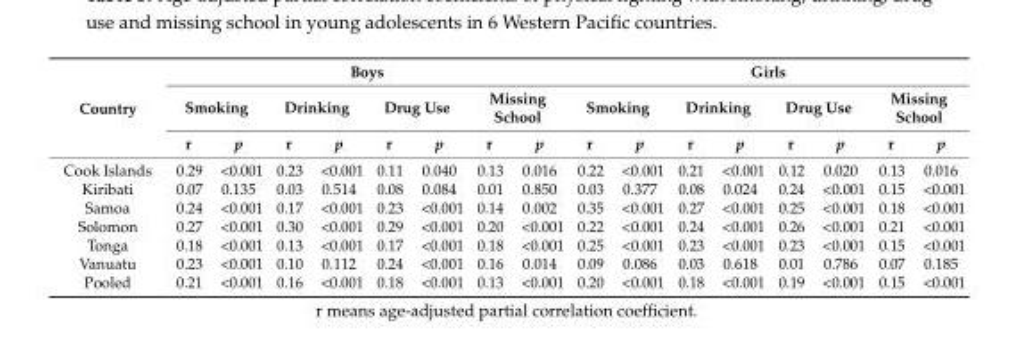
<table><thead><tr><td rowspan="3">Country</td><td colspan="8">Boys</td><td colspan="8">Girls</td></tr><tr><td colspan="2">Smoking</td><td colspan="2">Drinking</td><td colspan="2">Drug Use</td><td colspan="2">Missing School</td><td colspan="2">Smoking</td><td colspan="2">Drinking</td><td colspan="2">Drug Use</td><td colspan="2">Missing School</td></tr><tr><td>r</td><td>p</td><td>r</td><td>p</td><td>r</td><td>p</td><td>r</td><td>p</td><td>r</td><td>p</td><td>r</td><td>p</td><td>r</td><td>p</td><td>r</td><td>p</td></tr></thead><tbody><tr><td>Cook Islands</td><td>0.29</td><td>&lt;0.001</td><td>0.23</td><td>&lt;0.001</td><td>0.11</td><td>0.040</td><td>0.13</td><td>0.016</td><td>0.22</td><td>&lt;0.001</td><td>0.21</td><td>&lt;0.001</td><td>0.12</td><td>0.020</td><td>0.13</td><td>0.016</td></tr><tr><td>Kiribati</td><td>0.07</td><td>0.135</td><td>0.03</td><td>0.514</td><td>0.08</td><td>0.084</td><td>0.01</td><td>0.850</td><td>0.03</td><td>0.377</td><td>0.08</td><td>0.024</td><td>0.24</td><td>&lt;0.001</td><td>0.15</td><td>&lt;0.001</td></tr><tr><td>Samoa</td><td>0.24</td><td>&lt;0.001</td><td>0.17</td><td>&lt;0.001</td><td>0.23</td><td>&lt;0.001</td><td>0.14</td><td>0.002</td><td>0.35</td><td>&lt;0.001</td><td>0.27</td><td>&lt;0.001</td><td>0.25</td><td>&lt;0.001</td><td>0.18</td><td>&lt;0.001</td></tr><tr><td>Solomon</td><td>0.27</td><td>&lt;0.001</td><td>0.30</td><td>&lt;0.001</td><td>0.29</td><td>&lt;0.001</td><td>0.20</td><td>&lt;0.001</td><td>0.22</td><td>&lt;0.001</td><td>0.24</td><td>&lt;0.001</td><td>0.26</td><td>&lt;0.001</td><td>0.21</td><td>&lt;0.001</td></tr><tr><td>Tonga</td><td>0.18</td><td>&lt;0.001</td><td>0.13</td><td>&lt;0.001</td><td>0.17</td><td>&lt;0.001</td><td>0.18</td><td>&lt;0.001</td><td>0.25</td><td>&lt;0.001</td><td>0.23</td><td>&lt;0.001</td><td>0.23</td><td>&lt;0.001</td><td>0.15</td><td>&lt;0.001</td></tr><tr><td>Vanuatu</td><td>0.23</td><td>&lt;0.001</td><td>0.10</td><td>0.112</td><td>0.24</td><td>&lt;0.001</td><td>0.16</td><td>0.014</td><td>0.09</td><td>0.086</td><td>0.03</td><td>0.618</td><td>0.01</td><td>0.786</td><td>0.07</td><td>0.185</td></tr><tr><td>Pooled</td><td>0.21</td><td>&lt;0.001</td><td>0.16</td><td>&lt;0.001</td><td>0.18</td><td>&lt;0.001</td><td>0.13</td><td>&lt;0.001</td><td>0.20</td><td>&lt;0.001</td><td>0.18</td><td>&lt;0.001</td><td>0.19</td><td>&lt;0.001</td><td>0.15</td><td>&lt;0.001</td></tr></tbody></table>